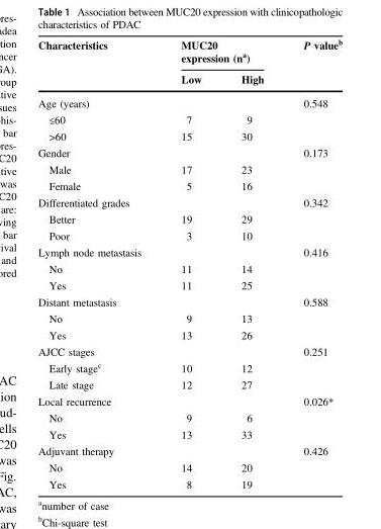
<table><thead><tr><td rowspan="2">Characteristics</td><td colspan="2">MUC20 expression (n<sup>a</sup>)</td><td rowspan="2">P value<sup>b</sup></td></tr><tr><td>Low</td><td>High</td></tr></thead><tbody><tr><td>Age (years)</td><td></td><td></td><td>0.548</td></tr><tr><td>≤60</td><td>7</td><td>9</td><td></td></tr><tr><td>&gt;60</td><td>15</td><td>30</td><td></td></tr><tr><td>Gender</td><td></td><td></td><td>0.173</td></tr><tr><td>Male</td><td>17</td><td>23</td><td></td></tr><tr><td>Female</td><td>5</td><td>16</td><td></td></tr><tr><td>Differentiated grades</td><td></td><td></td><td>0.342</td></tr><tr><td>Better</td><td>19</td><td>29</td><td></td></tr><tr><td>Poor</td><td>3</td><td>10</td><td></td></tr><tr><td>Lymph node metastasis</td><td></td><td></td><td>0.416</td></tr><tr><td>No</td><td>11</td><td>14</td><td></td></tr><tr><td>Yes</td><td>11</td><td>25</td><td></td></tr><tr><td>Distant metastasis</td><td></td><td></td><td>0.588</td></tr><tr><td>No</td><td>9</td><td>13</td><td></td></tr><tr><td>Yes</td><td>13</td><td>26</td><td></td></tr><tr><td>AJCC stages</td><td></td><td></td><td>0.251</td></tr><tr><td>Early stage<sup>c</sup></td><td>10</td><td>12</td><td></td></tr><tr><td>Late stage</td><td>12</td><td>27</td><td></td></tr><tr><td>Local recurrence</td><td></td><td></td><td>0.026*</td></tr><tr><td>No</td><td>9</td><td>6</td><td></td></tr><tr><td>Yes</td><td>13</td><td>33</td><td></td></tr><tr><td>Adjuvant therapy</td><td></td><td></td><td>0.426</td></tr><tr><td>No</td><td>14</td><td>20</td><td></td></tr><tr><td>Yes</td><td>8</td><td>19</td><td></td></tr></tbody></table>